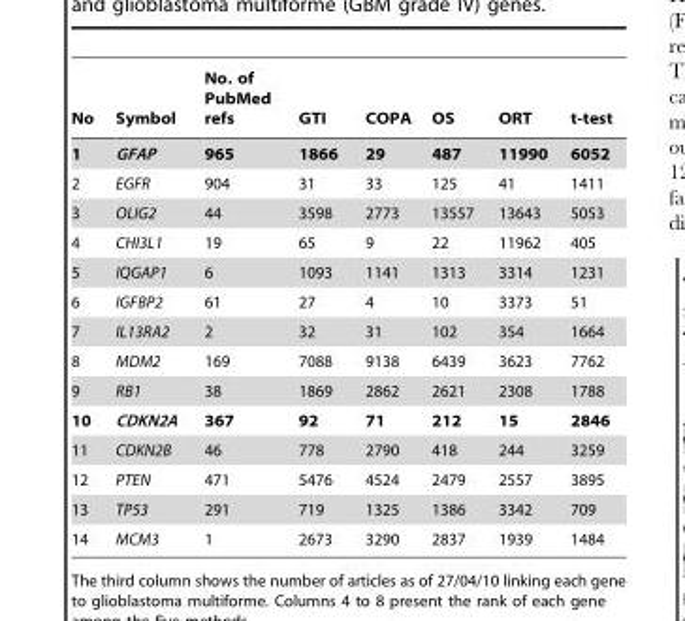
<table><thead><tr><td>No</td><td>Symbol</td><td>No. of PubMed refs</td><td>GTI</td><td>COPA</td><td>OS</td><td>ORT</td><td>t-test</td></tr></thead><tbody><tr><td>1</td><td>GFAP</td><td>965</td><td>1866</td><td>29</td><td>487</td><td>11990</td><td>6052</td></tr><tr><td>2</td><td>EGFR</td><td>904</td><td>31</td><td>33</td><td>125</td><td>41</td><td>1411</td></tr><tr><td>3</td><td>OLIG2</td><td>44</td><td>3598</td><td>2773</td><td>13557</td><td>13643</td><td>5053</td></tr><tr><td>4</td><td>CHI3L1</td><td>19</td><td>65</td><td>9</td><td>22</td><td>11962</td><td>405</td></tr><tr><td>5</td><td>IQGAP1</td><td>6</td><td>1093</td><td>1141</td><td>1313</td><td>3314</td><td>1231</td></tr><tr><td>6</td><td>IGFBP2</td><td>61</td><td>27</td><td>4</td><td>10</td><td>3373</td><td>51</td></tr><tr><td>7</td><td>IL13RA2</td><td>2</td><td>32</td><td>31</td><td>102</td><td>354</td><td>1664</td></tr><tr><td>8</td><td>MDM2</td><td>169</td><td>7088</td><td>9138</td><td>6439</td><td>3623</td><td>7762</td></tr><tr><td>9</td><td>RB1</td><td>38</td><td>1869</td><td>2862</td><td>2621</td><td>2308</td><td>1788</td></tr><tr><td>10</td><td>CDKN2A</td><td>367</td><td>92</td><td>71</td><td>212</td><td>15</td><td>2846</td></tr><tr><td>11</td><td>CDKN2B</td><td>46</td><td>778</td><td>2790</td><td>418</td><td>244</td><td>3259</td></tr><tr><td>12</td><td>PTEN</td><td>471</td><td>5476</td><td>4524</td><td>2479</td><td>2557</td><td>3895</td></tr><tr><td>13</td><td>TP53</td><td>291</td><td>719</td><td>1325</td><td>1386</td><td>3342</td><td>709</td></tr><tr><td>14</td><td>MCM3</td><td>1</td><td>2673</td><td>3290</td><td>2837</td><td>1939</td><td>1484</td></tr></tbody></table>